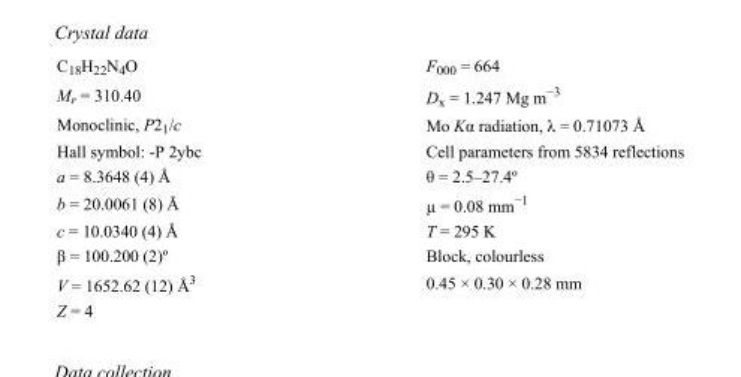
<table><tbody><tr><td>C<sub>18</sub>H<sub>22</sub>N<sub>4</sub>O</td><td>F000 = 664</td></tr><tr><td>M<sub>r</sub> = 310.40</td><td>D<sub>x</sub> = 1.247 Mg m<sup>−3</sup></td></tr><tr><td>Monoclinic, P2<sub>1</sub>/c</td><td>Mo Kα radiation, λ = 0.71073 Å</td></tr><tr><td>Hall symbol: -P 2ybc</td><td>Cell parameters from 5834 reflections</td></tr><tr><td>a = 8.3648 (4) Å</td><td>θ = 2.5–27.4º</td></tr><tr><td>b = 20.0061 (8) Å</td><td>µ = 0.08 mm<sup>−1</sup></td></tr><tr><td>c = 10.0340 (4) Å</td><td>T = 295 K</td></tr><tr><td>β = 100.200 (2)º</td><td>Block, colourless</td></tr><tr><td>V = 1652.62 (12) Å<sup>3</sup></td><td>0.45 × 0.30 × 0.28 mm</td></tr><tr><td>Z = 4</td><td></td></tr></tbody></table>